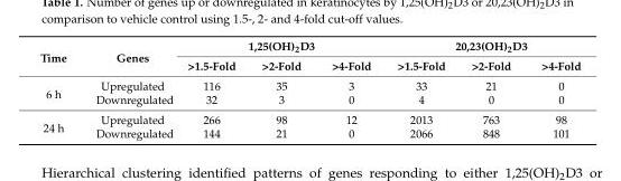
<table><thead><tr><td rowspan="2">Time</td><td rowspan="2">Genes</td><td colspan="3">1,25(OH)<sub>2</sub>D3</td><td colspan="3">20,23(OH)<sub>2</sub>D3</td></tr><tr><td>&gt;1.5-Fold</td><td>&gt;2-Fold</td><td>&gt;4-Fold</td><td>&gt;1.5-Fold</td><td>&gt;2-Fold</td><td>&gt;4-Fold</td></tr></thead><tbody><tr><td rowspan="2">6 h</td><td>Upregulated</td><td>116</td><td>35</td><td>3</td><td>33</td><td>21</td><td>0</td></tr><tr><td>Downregulated</td><td>32</td><td>3</td><td>0</td><td>4</td><td>0</td><td>0</td></tr><tr><td rowspan="2">24 h</td><td>Upregulated</td><td>266</td><td>98</td><td>12</td><td>2013</td><td>763</td><td>98</td></tr><tr><td>Downregulated</td><td>144</td><td>21</td><td>0</td><td>2066</td><td>848</td><td>101</td></tr></tbody></table>